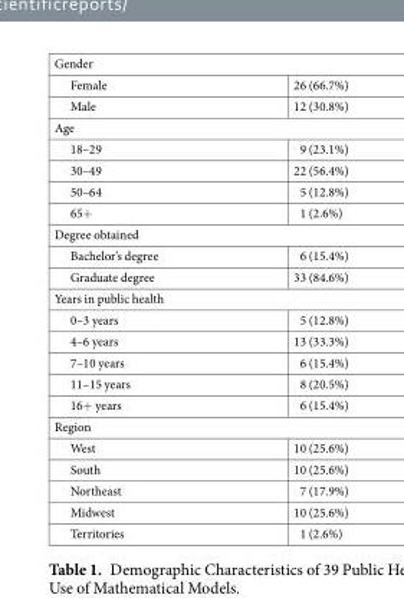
<table><tbody><tr><td colspan="2">Gender</td></tr><tr><td>Female</td><td>26 (66.7%)</td></tr><tr><td>Male</td><td>12 (30.8%)</td></tr><tr><td colspan="2">Age</td></tr><tr><td>18–29</td><td>9 (23.1%)</td></tr><tr><td>30–49</td><td>22 (56.4%)</td></tr><tr><td>50–64</td><td>5 (12.8%)</td></tr><tr><td>65+</td><td>1 (2.6%)</td></tr><tr><td colspan="2">Degree obtained</td></tr><tr><td>Bachelor’s degree</td><td>6 (15.4%)</td></tr><tr><td>Graduate degree</td><td>33 (84.6%)</td></tr><tr><td colspan="2">Years in public health</td></tr><tr><td>0–3 years</td><td>5 (12.8%)</td></tr><tr><td>4–6 years</td><td>13 (33.3%)</td></tr><tr><td>7–10 years</td><td>6 (15.4%)</td></tr><tr><td>11–15 years</td><td>8 (20.5%)</td></tr><tr><td>16+ years</td><td>6 (15.4%)</td></tr><tr><td colspan="2">Region</td></tr><tr><td>West</td><td>10 (25.6%)</td></tr><tr><td>South</td><td>10 (25.6%)</td></tr><tr><td>Northeast</td><td>7 (17.9%)</td></tr><tr><td>Midwest</td><td>10 (25.6%)</td></tr><tr><td>Territories</td><td>1 (2.6%)</td></tr></tbody></table>